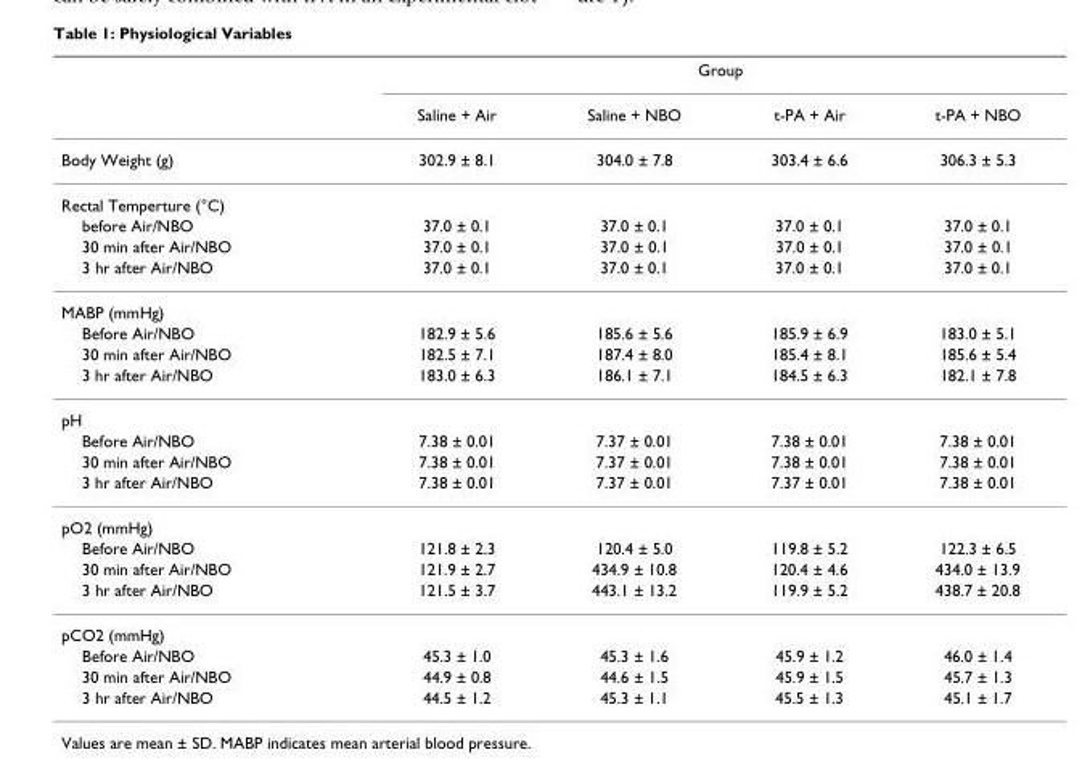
<table><thead><tr><td rowspan="2"></td><td colspan="4">Group</td></tr><tr><td>Saline + Air</td><td>Saline + NBO</td><td>t-PA + Air</td><td>t-PA + NBO</td></tr></thead><tbody><tr><td>Body Weight (g)</td><td>302.9 ± 8.1</td><td>304.0 ± 7.8</td><td>303.4 ± 6.6</td><td>306.3 ± 5.3</td></tr><tr><td colspan="5">Rectal Temperture (°C)</td></tr><tr><td>before Air/NBO</td><td>37.0 ± 0.1</td><td>37.0 ± 0.1</td><td>37.0 ± 0.1</td><td>37.0 ± 0.1</td></tr><tr><td>30 min after Air/NBO</td><td>37.0 ± 0.1</td><td>37.0 ± 0.1</td><td>37.0 ± 0.1</td><td>37.0 ± 0.1</td></tr><tr><td>3 hr after Air/NBO</td><td>37.0 ± 0.1</td><td>37.0 ± 0.1</td><td>37.0 ± 0.1</td><td>37.0 ± 0.1</td></tr><tr><td colspan="5">MABP (mmHg)</td></tr><tr><td>Before Air/NBO</td><td>182.9 ± 5.6</td><td>185.6 ± 5.6</td><td>185.9 ± 6.9</td><td>183.0 ± 5.1</td></tr><tr><td>30 min after Air/NBO</td><td>182.5 ± 7.1</td><td>187.4 ± 8.0</td><td>185.4 ± 8.1</td><td>185.6 ± 5.4</td></tr><tr><td>3 hr after Air/NBO</td><td>183.0 ± 6.3</td><td>186.1 ± 7.1</td><td>184.5 ± 6.3</td><td>182.1 ± 7.8</td></tr><tr><td colspan="5">pH</td></tr><tr><td>Before Air/NBO</td><td>7.38 ± 0.01</td><td>7.37 ± 0.01</td><td>7.38 ± 0.01</td><td>7.38 ± 0.01</td></tr><tr><td>30 min after Air/NBO</td><td>7.38 ± 0.01</td><td>7.37 ± 0.01</td><td>7.38 ± 0.01</td><td>7.38 ± 0.01</td></tr><tr><td>3 hr after Air/NBO</td><td>7.38 ± 0.01</td><td>7.37 ± 0.01</td><td>7.37 ± 0.01</td><td>7.38 ± 0.01</td></tr><tr><td colspan="5">pO2 (mmHg)</td></tr><tr><td>Before Air/NBO</td><td>121.8 ± 2.3</td><td>120.4 ± 5.0</td><td>119.8 ± 5.2</td><td>122.3 ± 6.5</td></tr><tr><td>30 min after Air/NBO</td><td>121.9 ± 2.7</td><td>434.9 ± 10.8</td><td>120.4 ± 4.6</td><td>434.0 ± 13.9</td></tr><tr><td>3 hr after Air/NBO</td><td>121.5 ± 3.7</td><td>443.1 ± 13.2</td><td>119.9 ± 5.2</td><td>438.7 ± 20.8</td></tr><tr><td colspan="5">pCO2 (mmHg)</td></tr><tr><td>Before Air/NBO</td><td>45.3 ± 1.0</td><td>45.3 ± 1.6</td><td>45.9 ± 1.2</td><td>46.0 ± 1.4</td></tr><tr><td>30 min after Air/NBO</td><td>44.9 ± 0.8</td><td>44.6 ± 1.5</td><td>45.9 ± 1.5</td><td>45.7 ± 1.3</td></tr><tr><td>3 hr after Air/NBO</td><td>44.5 ± 1.2</td><td>45.3 ± 1.1</td><td>45.5 ± 1.3</td><td>45.1 ± 1.7</td></tr></tbody></table>